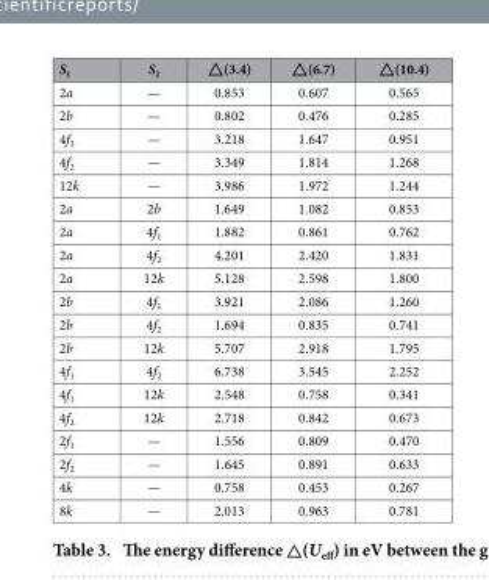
<table><thead><tr><td>S<sub>1</sub></td><td>S<sub>2</sub></td><td>△(3.4)</td><td>△(6.7)</td><td>△(10.4)</td></tr></thead><tbody><tr><td>2a</td><td>—</td><td>0.853</td><td>0.607</td><td>0.565</td></tr><tr><td>2b</td><td>—</td><td>0.802</td><td>0.476</td><td>0.285</td></tr><tr><td>4f<sub>1</sub></td><td>—</td><td>3.218</td><td>1.647</td><td>0.951</td></tr><tr><td>4f<sub>2</sub></td><td>—</td><td>3.349</td><td>1.814</td><td>1.268</td></tr><tr><td>12k</td><td>—</td><td>3.986</td><td>1.972</td><td>1.244</td></tr><tr><td>2a</td><td>2b</td><td>1.649</td><td>1.082</td><td>0.853</td></tr><tr><td>2a</td><td>4f<sub>1</sub></td><td>1.882</td><td>0.861</td><td>0.762</td></tr><tr><td>2a</td><td>4f<sub>2</sub></td><td>4.201</td><td>2.420</td><td>1.831</td></tr><tr><td>2a</td><td>12k</td><td>5.128</td><td>2.598</td><td>1.800</td></tr><tr><td>2b</td><td>4f<sub>1</sub></td><td>3.921</td><td>2.086</td><td>1.260</td></tr><tr><td>2b</td><td>4f<sub>2</sub></td><td>1.694</td><td>0.835</td><td>0.741</td></tr><tr><td>2b</td><td>12k</td><td>5.707</td><td>2.918</td><td>1.795</td></tr><tr><td>4f<sub>1</sub></td><td>4f<sub>2</sub></td><td>6.738</td><td>3.545</td><td>2.252</td></tr><tr><td>4f<sub>1</sub></td><td>12k</td><td>2.548</td><td>0.758</td><td>0.341</td></tr><tr><td>4f<sub>2</sub></td><td>12k</td><td>2.718</td><td>0.842</td><td>0.673</td></tr><tr><td>2f<sub>1</sub></td><td>—</td><td>1.556</td><td>0.809</td><td>0.470</td></tr><tr><td>2f<sub>2</sub></td><td>—</td><td>1.645</td><td>0.891</td><td>0.633</td></tr><tr><td>4k</td><td>—</td><td>0.758</td><td>0.453</td><td>0.267</td></tr><tr><td>8k</td><td>—</td><td>2.013</td><td>0.963</td><td>0.781</td></tr></tbody></table>